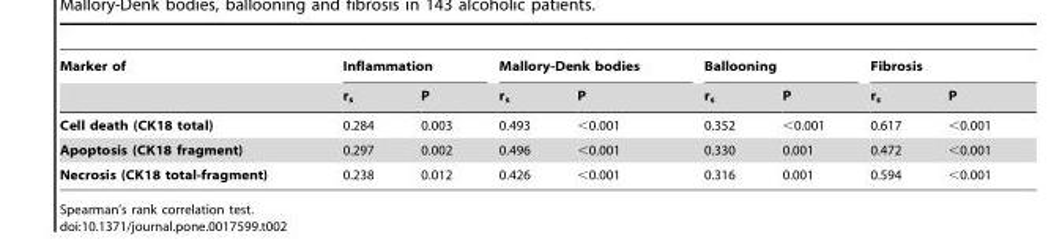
<table><thead><tr><td rowspan="2">Marker of</td><td colspan="2">Inflammation</td><td colspan="2">Mallory-Denk bodies</td><td colspan="2">Ballooning</td><td colspan="2">Fibrosis</td></tr><tr><td>r<sub>s</sub></td><td>P</td><td>r<sub>s</sub></td><td>P</td><td>r<sub>s</sub></td><td>P</td><td>r<sub>s</sub></td><td>P</td></tr></thead><tbody><tr><td>Cell death (CK18 total)</td><td>0.284</td><td>0.003</td><td>0.493</td><td>&lt;0.001</td><td>0.352</td><td>&lt;0.001</td><td>0.617</td><td>&lt;0.001</td></tr><tr><td>Apoptosis (CK18 fragment)</td><td>0.297</td><td>0.002</td><td>0.496</td><td>&lt;0.001</td><td>0.330</td><td>0.001</td><td>0.472</td><td>&lt;0.001</td></tr><tr><td>Necrosis (CK18 total-fragment)</td><td>0.238</td><td>0.012</td><td>0.426</td><td>&lt;0.001</td><td>0.316</td><td>0.001</td><td>0.594</td><td>&lt;0.001</td></tr></tbody></table>